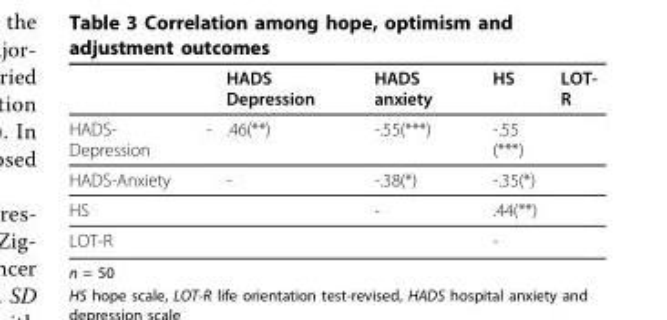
<table><thead><tr><td></td><td></td><td>HADS Depression</td><td>HADS anxiety</td><td>HS</td><td>LOT- R</td></tr></thead><tbody><tr><td>HADS- Depression</td><td>-</td><td>.46(**)</td><td>-.55(***)</td><td>-.55 (***)</td><td></td></tr><tr><td>HADS-Anxiety</td><td></td><td>-</td><td>-.38(*)</td><td>-.35(*)</td><td></td></tr><tr><td>HS</td><td></td><td></td><td>-</td><td>.44(**)</td><td></td></tr><tr><td>LOT-R</td><td></td><td></td><td></td><td>-</td><td></td></tr></tbody></table>